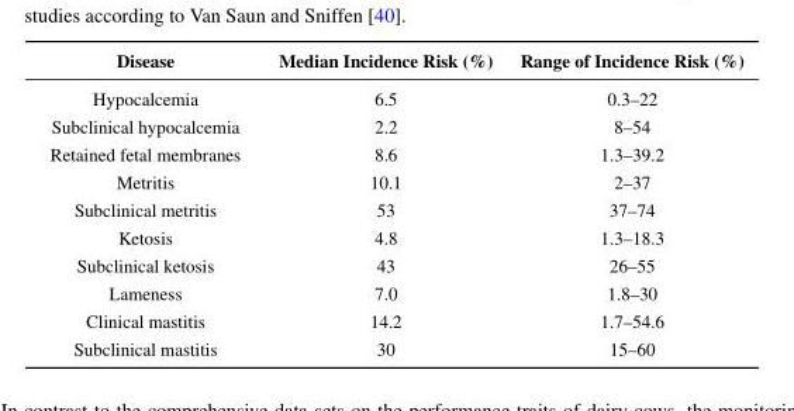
<table><thead><tr><td>Disease</td><td>Median Incidence Risk (%)</td><td>Range of Incidence Risk (%)</td></tr></thead><tbody><tr><td>Hypocalcemia</td><td>6.5</td><td>0.3–22</td></tr><tr><td>Subclinical hypocalcemia</td><td>2.2</td><td>8–54</td></tr><tr><td>Retained fetal membranes</td><td>8.6</td><td>1.3–39.2</td></tr><tr><td>Metritis</td><td>10.1</td><td>2–37</td></tr><tr><td>Subclinical metritis</td><td>53</td><td>37–74</td></tr><tr><td>Ketosis</td><td>4.8</td><td>1.3–18.3</td></tr><tr><td>Subclinical ketosis</td><td>43</td><td>26–55</td></tr><tr><td>Lameness</td><td>7.0</td><td>1.8–30</td></tr><tr><td>Clinical mastitis</td><td>14.2</td><td>1.7–54.6</td></tr><tr><td>Subclinical mastitis</td><td>30</td><td>15–60</td></tr></tbody></table>